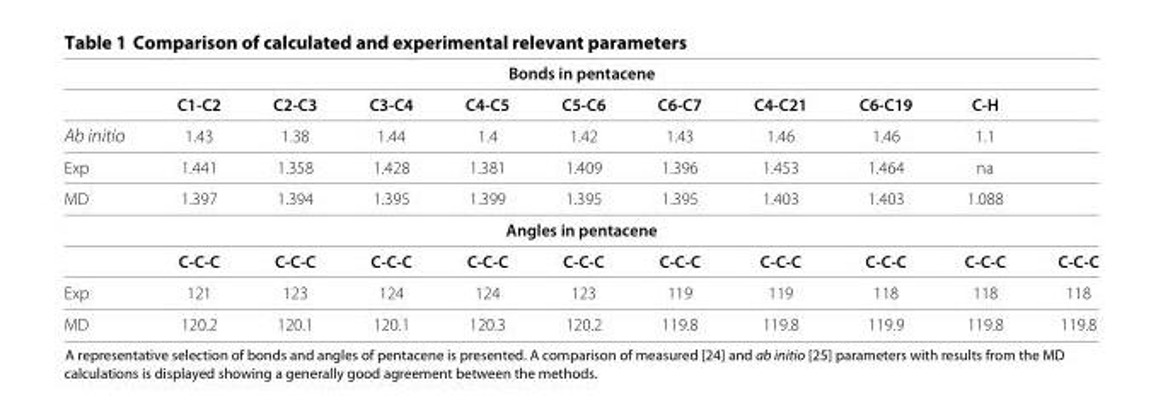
<table><thead><tr><td colspan="11">Bonds in pentacene</td></tr><tr><td></td><td>C1-C2</td><td>C2-C3</td><td>C3-C4</td><td>C4-C5</td><td>C5-C6</td><td>C6-C7</td><td>C4-C21</td><td>C6-C19</td><td>C-H</td><td></td></tr></thead><tbody><tr><td>Ab initio</td><td>1.43</td><td>1.38</td><td>1.44</td><td>1.4</td><td>1.42</td><td>1.43</td><td>1.46</td><td>1.46</td><td>1.1</td><td></td></tr><tr><td>Exp</td><td>1.441</td><td>1.358</td><td>1.428</td><td>1.381</td><td>1.409</td><td>1.396</td><td>1.453</td><td>1.464</td><td>na</td><td></td></tr><tr><td>MD</td><td>1.397</td><td>1.394</td><td>1.395</td><td>1.399</td><td>1.395</td><td>1.395</td><td>1.403</td><td>1.403</td><td>1.088</td><td></td></tr><tr><td colspan="11">Angles in pentacene</td></tr><tr><td></td><td>C-C-C</td><td>C-C-C</td><td>C-C-C</td><td>C-C-C</td><td>C-C-C</td><td>C-C-C</td><td>C-C-C</td><td>C-C-C</td><td>C-C-C</td><td>C-C-C</td></tr><tr><td>Exp</td><td>121</td><td>123</td><td>124</td><td>124</td><td>123</td><td>119</td><td>119</td><td>118</td><td>118</td><td>118</td></tr><tr><td>MD</td><td>120.2</td><td>120.1</td><td>120.1</td><td>120.3</td><td>120.2</td><td>119.8</td><td>119.8</td><td>119.9</td><td>119.8</td><td>119.8</td></tr></tbody></table>